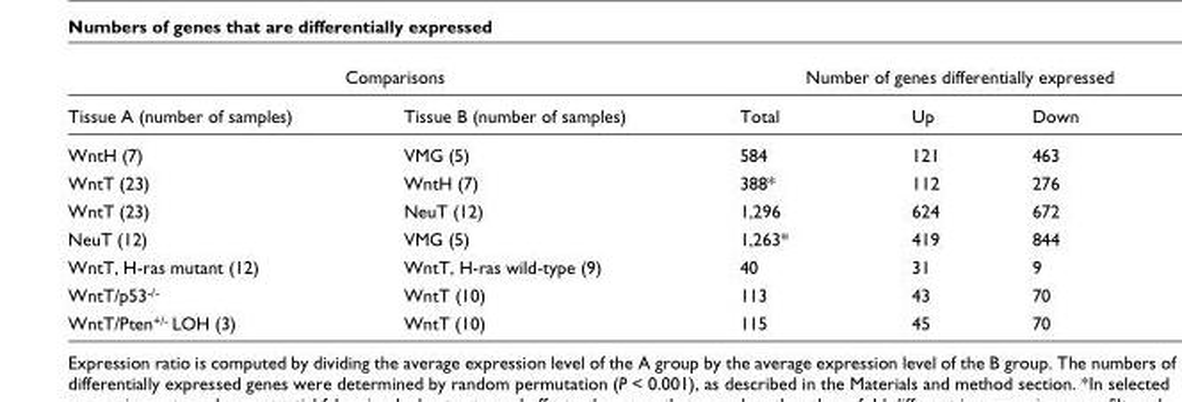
<table><thead><tr><td colspan="2">Comparisons</td><td colspan="3">Number of genes differentially expressed</td></tr><tr><td>Tissue A (number of samples)</td><td>Tissue B (number of samples)</td><td>Total</td><td>Up</td><td>Down</td></tr></thead><tbody><tr><td>WntH (7)</td><td>VMG (5)</td><td>584</td><td>121</td><td>463</td></tr><tr><td>WntT (23)</td><td>WntH (7)</td><td>388*</td><td>112</td><td>276</td></tr><tr><td>WntT (23)</td><td>NeuT (12)</td><td>1,296</td><td>624</td><td>672</td></tr><tr><td>NeuT (12)</td><td>VMG (5)</td><td>1,263*</td><td>419</td><td>844</td></tr><tr><td>WntT, H-ras mutant (12)</td><td>WntT, H-ras wild-type (9)</td><td>40</td><td>31</td><td>9</td></tr><tr><td>WntT/p53-/-</td><td>WntT (10)</td><td>113</td><td>43</td><td>70</td></tr><tr><td>WntT/Pten+/- LOH (3)</td><td>WntT (10)</td><td>115</td><td>45</td><td>70</td></tr></tbody></table>